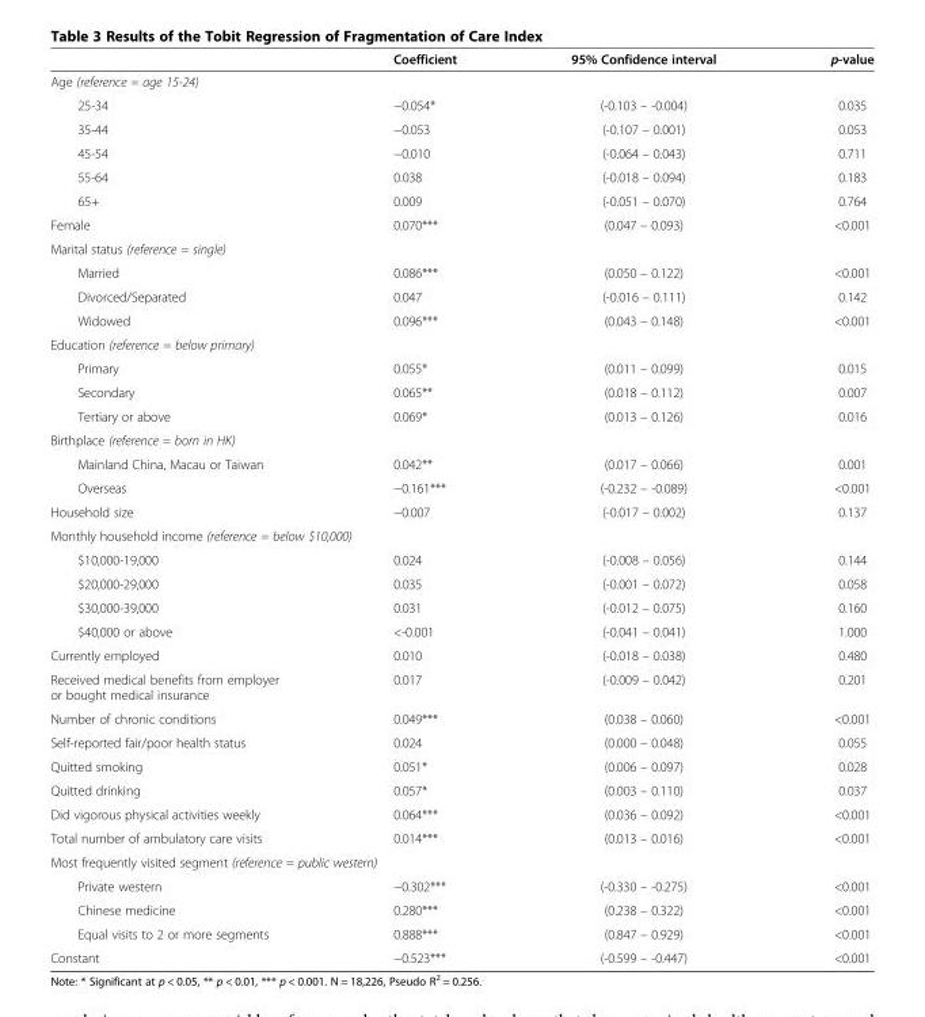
<table><thead><tr><td></td><td>Coefficient</td><td>95% Confidence interval</td><td>p-value</td></tr></thead><tbody><tr><td colspan="4">Age (reference = age 15-24)</td></tr><tr><td>25-34</td><td>−0.054*</td><td>(-0.103 – -0.004)</td><td>0.035</td></tr><tr><td>35-44</td><td>−0.053</td><td>(-0.107 – 0.001)</td><td>0.053</td></tr><tr><td>45-54</td><td>−0.010</td><td>(-0.064 – 0.043)</td><td>0.711</td></tr><tr><td>55-64</td><td>0.038</td><td>(-0.018 – 0.094)</td><td>0.183</td></tr><tr><td>65+</td><td>0.009</td><td>(-0.051 – 0.070)</td><td>0.764</td></tr><tr><td>Female</td><td>0.070***</td><td>(0.047 – 0.093)</td><td>&lt;0.001</td></tr><tr><td colspan="4">Marital status (reference = single)</td></tr><tr><td>Married</td><td>0.086***</td><td>(0.050 – 0.122)</td><td>&lt;0.001</td></tr><tr><td>Divorced/Separated</td><td>0.047</td><td>(-0.016 – 0.111)</td><td>0.142</td></tr><tr><td>Widowed</td><td>0.096***</td><td>(0.043 – 0.148)</td><td>&lt;0.001</td></tr><tr><td colspan="4">Education (reference = below primary)</td></tr><tr><td>Primary</td><td>0.055*</td><td>(0.011 – 0.099)</td><td>0.015</td></tr><tr><td>Secondary</td><td>0.065**</td><td>(0.018 – 0.112)</td><td>0.007</td></tr><tr><td>Tertiary or above</td><td>0.069*</td><td>(0.013 – 0.126)</td><td>0.016</td></tr><tr><td colspan="4">Birthplace (reference = born in HK)</td></tr><tr><td>Mainland China, Macau or Taiwan</td><td>0.042**</td><td>(0.017 – 0.066)</td><td>0.001</td></tr><tr><td>Overseas</td><td>−0.161***</td><td>(-0.232 – -0.089)</td><td>&lt;0.001</td></tr><tr><td>Household size</td><td>−0.007</td><td>(-0.017 – 0.002)</td><td>0.137</td></tr><tr><td colspan="4">Monthly household income (reference = below $10,000)</td></tr><tr><td>$10,000-19,000</td><td>0.024</td><td>(-0.008 – 0.056)</td><td>0.144</td></tr><tr><td>$20,000-29,000</td><td>0.035</td><td>(-0.001 – 0.072)</td><td>0.058</td></tr><tr><td>$30,000-39,000</td><td>0.031</td><td>(-0.012 – 0.075)</td><td>0.160</td></tr><tr><td>$40,000 or above</td><td>&lt;-0.001</td><td>(-0.041 – 0.041)</td><td>1.000</td></tr><tr><td>Currently employed</td><td>0.010</td><td>(-0.018 – 0.038)</td><td>0.480</td></tr><tr><td>Received medical benefits from employer or bought medical insurance</td><td>0.017</td><td>(-0.009 – 0.042)</td><td>0.201</td></tr><tr><td>Number of chronic conditions</td><td>0.049***</td><td>(0.038 – 0.060)</td><td>&lt;0.001</td></tr><tr><td>Self-reported fair/poor health status</td><td>0.024</td><td>(0.000 – 0.048)</td><td>0.055</td></tr><tr><td>Quitted smoking</td><td>0.051*</td><td>(0.006 – 0.097)</td><td>0.028</td></tr><tr><td>Quitted drinking</td><td>0.057*</td><td>(0.003 – 0.110)</td><td>0.037</td></tr><tr><td>Did vigorous physical activities weekly</td><td>0.064***</td><td>(0.036 – 0.092)</td><td>&lt;0.001</td></tr><tr><td>Total number of ambulatory care visits</td><td>0.014***</td><td>(0.013 – 0.016)</td><td>&lt;0.001</td></tr><tr><td colspan="4">Most frequently visited segment (reference = public western)</td></tr><tr><td>Private western</td><td>−0.302***</td><td>(-0.330 – -0.275)</td><td>&lt;0.001</td></tr><tr><td>Chinese medicine</td><td>0.280***</td><td>(0.238 – 0.322)</td><td>&lt;0.001</td></tr><tr><td>Equal visits to 2 or more segments</td><td>0.888***</td><td>(0.847 – 0.929)</td><td>&lt;0.001</td></tr><tr><td>Constant</td><td>−0.523***</td><td>(-0.599 – -0.447)</td><td>&lt;0.001</td></tr></tbody></table>